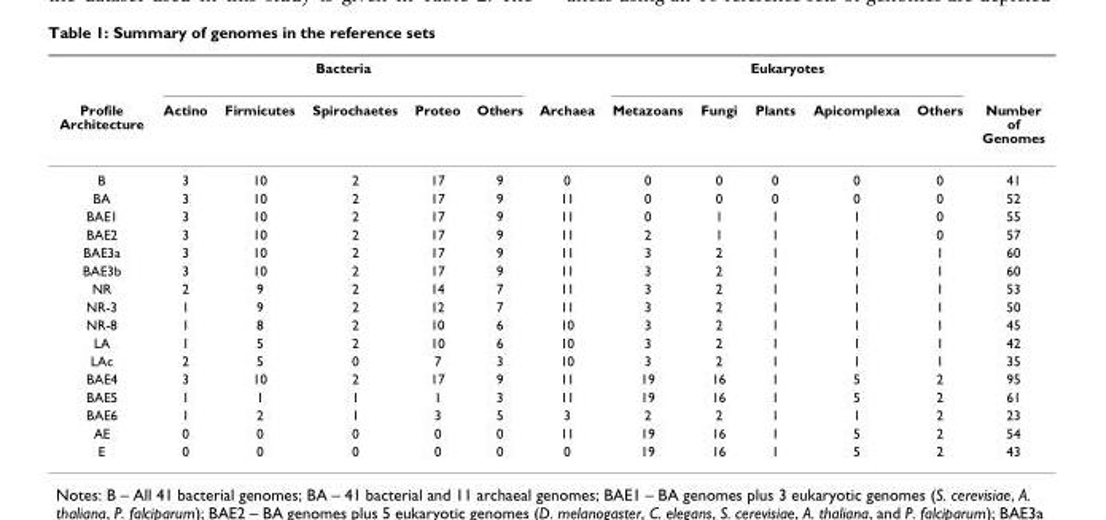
<table><thead><tr><td rowspan="2">Profile Architecture</td><td colspan="5">Bacteria</td><td rowspan="2">Archaea</td><td colspan="5">Eukaryotes</td><td rowspan="2">Number of Genomes</td></tr><tr><td>Actino</td><td>Firmicutes</td><td>Spirochaetes</td><td>Proteo</td><td>Others</td><td>Metazoans</td><td>Fungi</td><td>Plants</td><td>Apicomplexa</td><td>Others</td></tr></thead><tbody><tr><td>B</td><td>3</td><td>10</td><td>2</td><td>17</td><td>9</td><td>0</td><td>0</td><td>0</td><td>0</td><td>0</td><td>0</td><td>41</td></tr><tr><td>BA</td><td>3</td><td>10</td><td>2</td><td>17</td><td>9</td><td>11</td><td>0</td><td>0</td><td>0</td><td>0</td><td>0</td><td>52</td></tr><tr><td>BAE1</td><td>3</td><td>10</td><td>2</td><td>17</td><td>9</td><td>11</td><td>0</td><td>1</td><td>1</td><td>1</td><td>0</td><td>55</td></tr><tr><td>BAE2</td><td>3</td><td>10</td><td>2</td><td>17</td><td>9</td><td>11</td><td>2</td><td>1</td><td>1</td><td>1</td><td>0</td><td>57</td></tr><tr><td>BAE3a</td><td>3</td><td>10</td><td>2</td><td>17</td><td>9</td><td>11</td><td>3</td><td>2</td><td>1</td><td>1</td><td>1</td><td>60</td></tr><tr><td>BAE3b</td><td>3</td><td>10</td><td>2</td><td>17</td><td>9</td><td>11</td><td>3</td><td>2</td><td>1</td><td>1</td><td>1</td><td>60</td></tr><tr><td>NR</td><td>2</td><td>9</td><td>2</td><td>14</td><td>7</td><td>11</td><td>3</td><td>2</td><td>1</td><td>1</td><td>1</td><td>53</td></tr><tr><td>NR-3</td><td>1</td><td>9</td><td>2</td><td>12</td><td>7</td><td>11</td><td>3</td><td>2</td><td>1</td><td>1</td><td>1</td><td>50</td></tr><tr><td>NR-8</td><td>1</td><td>8</td><td>2</td><td>10</td><td>6</td><td>10</td><td>3</td><td>2</td><td>1</td><td>1</td><td>1</td><td>45</td></tr><tr><td>LA</td><td>1</td><td>5</td><td>2</td><td>10</td><td>6</td><td>10</td><td>3</td><td>2</td><td>1</td><td>1</td><td>1</td><td>42</td></tr><tr><td>LAc</td><td>2</td><td>5</td><td>0</td><td>7</td><td>3</td><td>10</td><td>3</td><td>2</td><td>1</td><td>1</td><td>1</td><td>35</td></tr><tr><td>BAE4</td><td>3</td><td>10</td><td>2</td><td>17</td><td>9</td><td>11</td><td>19</td><td>16</td><td>1</td><td>5</td><td>2</td><td>95</td></tr><tr><td>BAE5</td><td>1</td><td>1</td><td>1</td><td>1</td><td>3</td><td>11</td><td>19</td><td>16</td><td>1</td><td>5</td><td>2</td><td>61</td></tr><tr><td>BAE6</td><td>1</td><td>2</td><td>1</td><td>3</td><td>5</td><td>3</td><td>2</td><td>2</td><td>1</td><td>1</td><td>2</td><td>23</td></tr><tr><td>AE</td><td>0</td><td>0</td><td>0</td><td>0</td><td>0</td><td>11</td><td>19</td><td>16</td><td>1</td><td>5</td><td>2</td><td>54</td></tr><tr><td>E</td><td>0</td><td>0</td><td>0</td><td>0</td><td>0</td><td>0</td><td>19</td><td>16</td><td>1</td><td>5</td><td>2</td><td>43</td></tr></tbody></table>